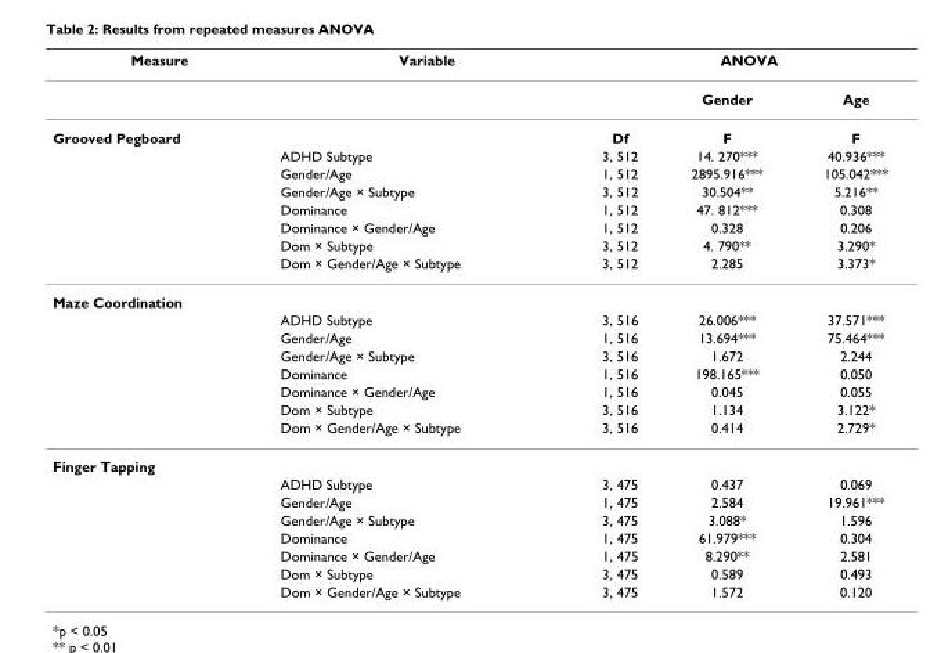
<table><thead><tr><td rowspan="2">Measure</td><td rowspan="2">Variable</td><td colspan="3">ANOVA</td></tr><tr><td></td><td>Gender</td><td>Age</td></tr></thead><tbody><tr><td rowspan="8">Grooved Pegboard</td><td></td><td>Df</td><td>F</td><td>F</td></tr><tr><td>ADHD Subtype</td><td>3, 512</td><td>14. 270***</td><td>40.936***</td></tr><tr><td>Gender/Age</td><td>1, 512</td><td>2895.916***</td><td>105.042***</td></tr><tr><td>Gender/Age × Subtype</td><td>3, 512</td><td>30.504**</td><td>5.216**</td></tr><tr><td>Dominance</td><td>1, 512</td><td>47. 812***</td><td>0.308</td></tr><tr><td>Dominance × Gender/Age</td><td>1, 512</td><td>0.328</td><td>0.206</td></tr><tr><td>Dom × Subtype</td><td>3, 512</td><td>4. 790**</td><td>3.290*</td></tr><tr><td>Dom × Gender/Age × Subtype</td><td>3, 512</td><td>2.285</td><td>3.373*</td></tr><tr><td colspan="5">Maze Coordination</td></tr><tr><td></td><td>ADHD Subtype</td><td>3, 516</td><td>26.006***</td><td>37.571***</td></tr><tr><td></td><td>Gender/Age</td><td>1, 516</td><td>13.694***</td><td>75.464***</td></tr><tr><td></td><td>Gender/Age × Subtype</td><td>3, 516</td><td>1.672</td><td>2.244</td></tr><tr><td></td><td>Dominance</td><td>1, 516</td><td>198.165***</td><td>0.050</td></tr><tr><td></td><td>Dominance × Gender/Age</td><td>1, 516</td><td>0.045</td><td>0.055</td></tr><tr><td></td><td>Dom × Subtype</td><td>3, 516</td><td>1.134</td><td>3.122*</td></tr><tr><td></td><td>Dom × Gender/Age × Subtype</td><td>3, 516</td><td>0.414</td><td>2.729*</td></tr><tr><td colspan="5">Finger Tapping</td></tr><tr><td></td><td>ADHD Subtype</td><td>3, 475</td><td>0.437</td><td>0.069</td></tr><tr><td></td><td>Gender/Age</td><td>1, 475</td><td>2.584</td><td>19.961***</td></tr><tr><td></td><td>Gender/Age × Subtype</td><td>3, 475</td><td>3.088*</td><td>1.596</td></tr><tr><td></td><td>Dominance</td><td>1, 475</td><td>61.979***</td><td>0.304</td></tr><tr><td></td><td>Dominance × Gender/Age</td><td>1, 475</td><td>8.290**</td><td>2.581</td></tr><tr><td></td><td>Dom × Subtype</td><td>3, 475</td><td>0.589</td><td>0.493</td></tr><tr><td></td><td>Dom × Gender/Age × Subtype</td><td>3, 475</td><td>1.572</td><td>0.120</td></tr></tbody></table>